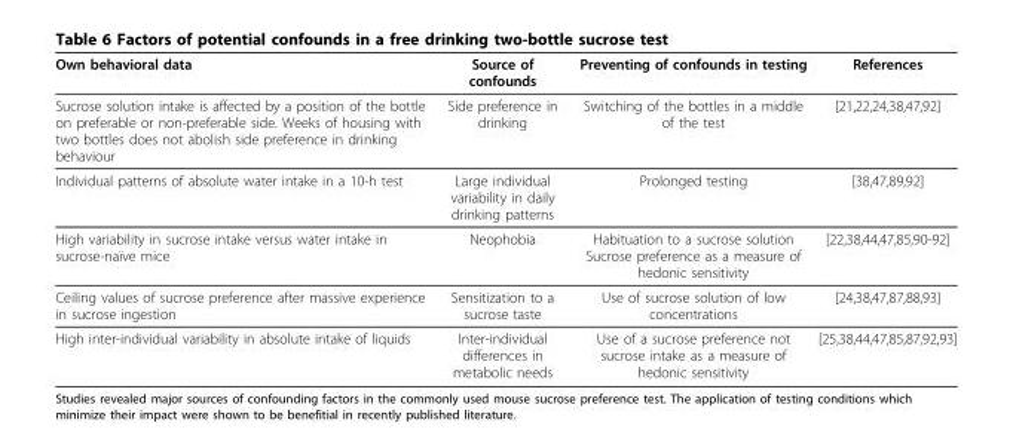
<table><thead><tr><td>Own behavioral data</td><td>Source of confounds</td><td>Preventing of confounds in testing</td><td>References</td></tr></thead><tbody><tr><td>Sucrose solution intake is affected by a position of the bottle on preferable or non-preferable side. Weeks of housing with two bottles does not abolish side preference in drinking behaviour</td><td>Side preference in drinking</td><td>Switching of the bottles in a middle of the test</td><td>[21,22,24,38,47,92]</td></tr><tr><td>Individual patterns of absolute water intake in a 10-h test</td><td>Large individual variability in daily drinking patterns</td><td>Prolonged testing</td><td>[38,47,89,92]</td></tr><tr><td>High variability in sucrose intake versus water intake in sucrose-naïve mice</td><td>Neophobia</td><td>Habituation to a sucrose solution Sucrose preference as a measure of hedonic sensitivity</td><td>[22,38,44,47,85,90-92]</td></tr><tr><td>Ceiling values of sucrose preference after massive experience in sucrose ingestion</td><td>Sensitization to a sucrose taste</td><td>Use of sucrose solution of low concentrations</td><td>[24,38,47,87,88,93]</td></tr><tr><td>High inter-individual variability in absolute intake of liquids</td><td>Inter-individual differences in metabolic needs</td><td>Use of a sucrose preference not sucrose intake as a measure of hedonic sensitivity</td><td>[25,38,44,47,85,87,92,93]</td></tr></tbody></table>